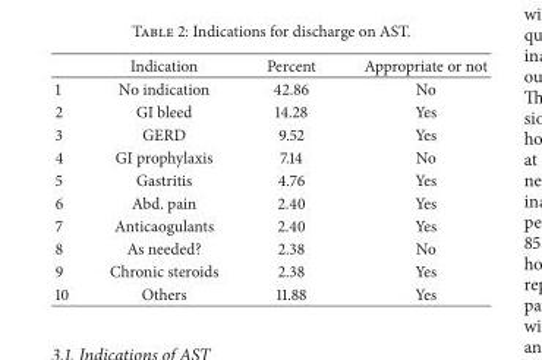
<table><thead><tr><td></td><td>Indication</td><td>Percent</td><td>Appropriate or not</td></tr></thead><tbody><tr><td>1</td><td>No indication</td><td>42.86</td><td>No</td></tr><tr><td>2</td><td>GI bleed</td><td>14.28</td><td>Yes</td></tr><tr><td>3</td><td>GERD</td><td>9.52</td><td>Yes</td></tr><tr><td>4</td><td>GI prophylaxis</td><td>7.14</td><td>No</td></tr><tr><td>5</td><td>Gastritis</td><td>4.76</td><td>Yes</td></tr><tr><td>6</td><td>Abd. pain</td><td>2.40</td><td>Yes</td></tr><tr><td>7</td><td>Anticaogulants</td><td>2.40</td><td>Yes</td></tr><tr><td>8</td><td>As needed?</td><td>2.38</td><td>No</td></tr><tr><td>9</td><td>Chronic steroids</td><td>2.38</td><td>Yes</td></tr><tr><td>10</td><td>Others</td><td>11.88</td><td>Yes</td></tr></tbody></table>